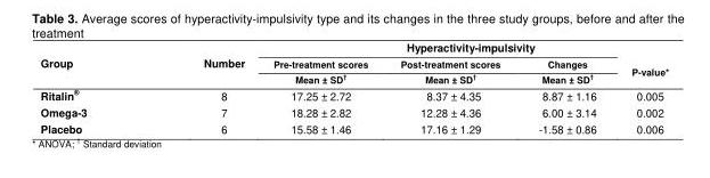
<table><thead><tr><td rowspan="3">Group</td><td rowspan="3">Number</td><td colspan="4">Hyperactivity-impulsivity</td></tr><tr><td rowspan="2">Pre-treatment scores Mean ± SD†</td><td rowspan="2">Post-treatment scores Mean ± SD†</td><td rowspan="2">Changes Mean ± SD†</td><td rowspan="2">P-value*</td></tr><tr></tr></thead><tbody><tr><td>Ritalin<sup>®</sup></td><td>8</td><td>17.25 ± 2.72</td><td>08.37 ± 4.35</td><td>-8.87 ± 1.16</td><td>0.005</td></tr><tr><td>Omega-3</td><td>7</td><td>18.28 ± 2.82</td><td>12.28 ± 4.36</td><td>-6.00 ± 3.14</td><td>0.002</td></tr><tr><td>Placebo</td><td>6</td><td>15.58 ± 1.46</td><td>17.16 ± 1.29</td><td>-1.58 ± 0.86</td><td>0.006</td></tr></tbody></table>